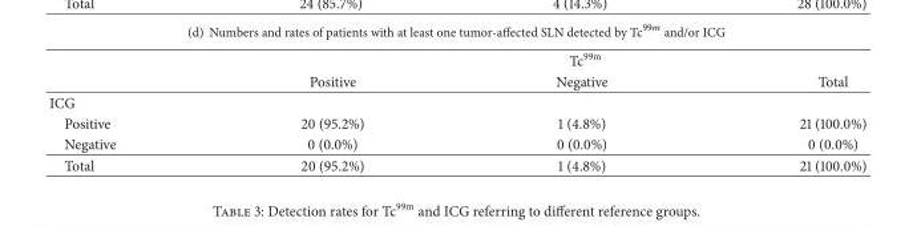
<table><thead><tr><td rowspan="2"></td><td colspan="3">Tc<sup>99m</sup></td></tr><tr><td>Positive</td><td>Negative</td><td>Total</td></tr></thead><tbody><tr><td colspan="4">ICG</td></tr><tr><td>Positive</td><td>20 (95.2%)</td><td>1 (4.8%)</td><td>21 (100.0%)</td></tr><tr><td>Negative</td><td>0 (0.0%)</td><td>0 (0.0%)</td><td>0 (0.0%)</td></tr><tr><td>Total</td><td>20 (95.2%)</td><td>1 (4.8%)</td><td>21 (100.0%)</td></tr></tbody></table>